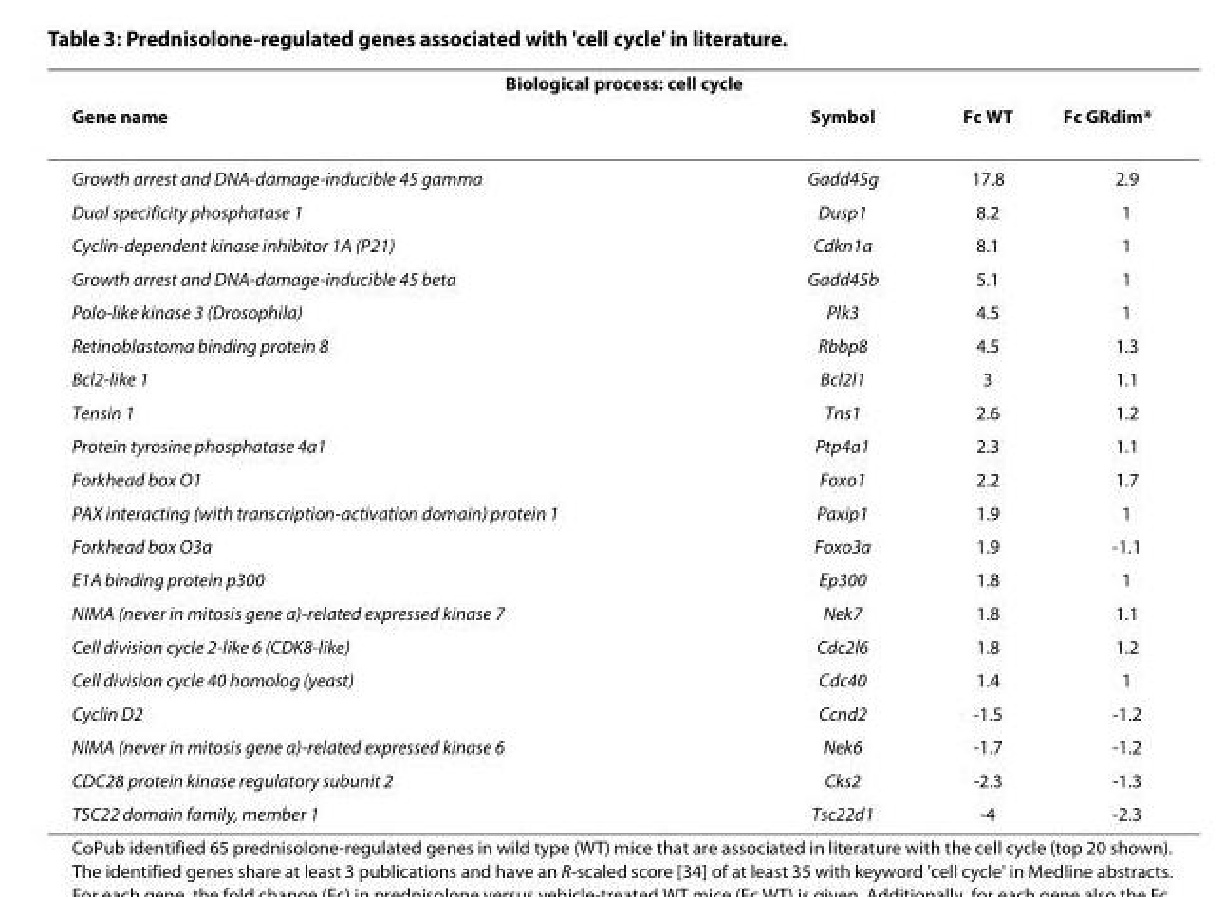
<table><thead><tr><td colspan="4">Biological process: cell cycle</td></tr><tr><td>Gene name</td><td>Symbol</td><td>Fc WT</td><td>Fc GR<sup>dim</sup>*</td></tr></thead><tbody><tr><td>Growth arrest and DNA-damage-inducible 45 gamma</td><td>Gadd45g</td><td>17.8</td><td>2.9</td></tr><tr><td>Dual specificity phosphatase 1</td><td>Dusp1</td><td>8.2</td><td>1</td></tr><tr><td>Cyclin-dependent kinase inhibitor 1A (P21)</td><td>Cdkn1a</td><td>8.1</td><td>1</td></tr><tr><td>Growth arrest and DNA-damage-inducible 45 beta</td><td>Gadd45b</td><td>5.1</td><td>1</td></tr><tr><td>Polo-like kinase 3 (Drosophila)</td><td>Plk3</td><td>4.5</td><td>1</td></tr><tr><td>Retinoblastoma binding protein 8</td><td>Rbbp8</td><td>4.5</td><td>1.3</td></tr><tr><td>Bcl2-like 1</td><td>Bcl2l1</td><td>3</td><td>1.1</td></tr><tr><td>Tensin 1</td><td>Tns1</td><td>2.6</td><td>1.2</td></tr><tr><td>Protein tyrosine phosphatase 4a1</td><td>Ptp4a1</td><td>2.3</td><td>1.1</td></tr><tr><td>Forkhead box O1</td><td>Foxo1</td><td>2.2</td><td>1.7</td></tr><tr><td>PAX interacting (with transcription-activation domain) protein 1</td><td>Paxip1</td><td>1.9</td><td>1</td></tr><tr><td>Forkhead box O3a</td><td>Foxo3a</td><td>1.9</td><td>-1.1</td></tr><tr><td>E1A binding protein p300</td><td>Ep300</td><td>1.8</td><td>1</td></tr><tr><td>NIMA (never in mitosis gene a)-related expressed kinase 7</td><td>Nek7</td><td>1.8</td><td>1.1</td></tr><tr><td>Cell division cycle 2-like 6 (CDK8-like)</td><td>Cdc2l6</td><td>1.8</td><td>1.2</td></tr><tr><td>Cell division cycle 40 homolog (yeast)</td><td>Cdc40</td><td>1.4</td><td>1</td></tr><tr><td>Cyclin D2</td><td>Ccnd2</td><td>-1.5</td><td>-1.2</td></tr><tr><td>NIMA (never in mitosis gene a)-related expressed kinase 6</td><td>Nek6</td><td>-1.7</td><td>-1.2</td></tr><tr><td>CDC28 protein kinase regulatory subunit 2</td><td>Cks2</td><td>-2.3</td><td>-1.3</td></tr><tr><td>TSC22 domain family, member 1</td><td>Tsc22d1</td><td>-4</td><td>-2.3</td></tr></tbody></table>